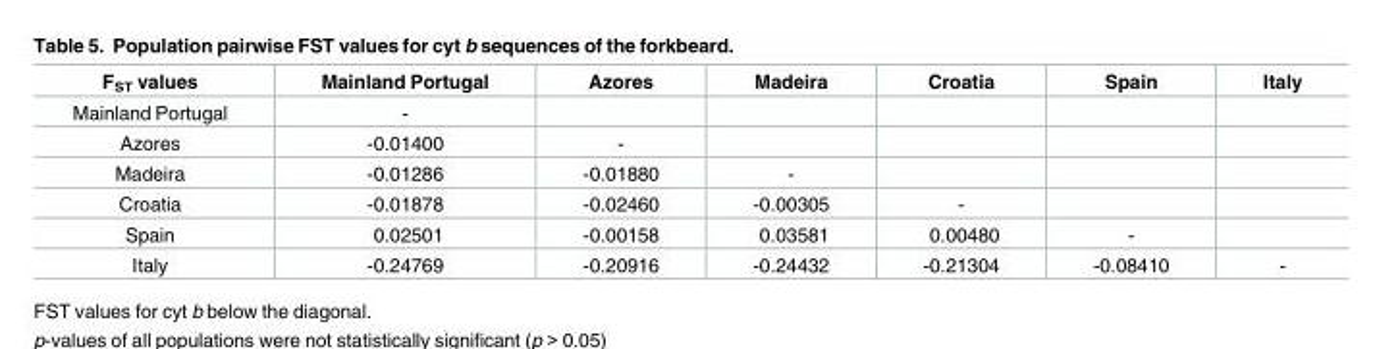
<table><thead><tr><td>F<sub>ST</sub> values</td><td>Mainland Portugal</td><td>Azores</td><td>Madeira</td><td>Croatia</td><td>Spain</td><td>Italy</td></tr></thead><tbody><tr><td>Mainland Portugal</td><td>-</td><td></td><td></td><td></td><td></td><td></td></tr><tr><td>Azores</td><td>-0.01400</td><td>-</td><td></td><td></td><td></td><td></td></tr><tr><td>Madeira</td><td>-0.01286</td><td>-0.01880</td><td>-</td><td></td><td></td><td></td></tr><tr><td>Croatia</td><td>-0.01878</td><td>-0.02460</td><td>-0.00305</td><td>-</td><td></td><td></td></tr><tr><td>Spain</td><td>0.02501</td><td>-0.00158</td><td>0.03581</td><td>0.00480</td><td>-</td><td></td></tr><tr><td>Italy</td><td>-0.24769</td><td>-0.20916</td><td>-0.24432</td><td>-0.21304</td><td>-0.08410</td><td>-</td></tr></tbody></table>